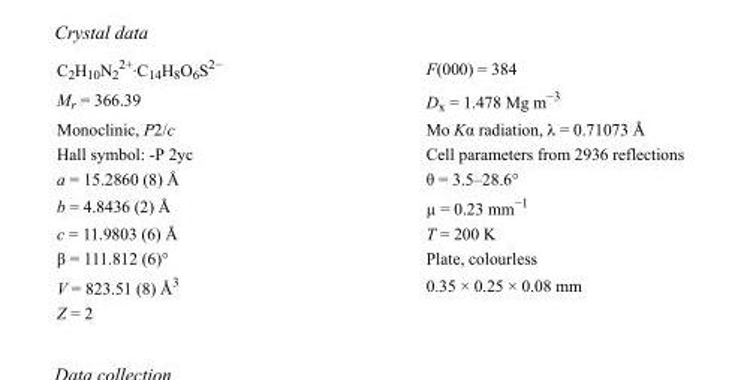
<table><tbody><tr><td>C<sub>2</sub>H<sub>10</sub>N<sub>2</sub> <sup>2+</sup>·C<sub>14</sub>H<sub>8</sub>O<sub>6</sub>S<sup>2−</sup></td><td>F(000) = 384</td></tr><tr><td>M<sub>r</sub> = 366.39</td><td>D<sub>x</sub> = 1.478 Mg m<sup>−3</sup></td></tr><tr><td>Monoclinic, P2/c</td><td>Mo Kα radiation, λ = 0.71073 Å</td></tr><tr><td>Hall symbol: -P 2yc</td><td>Cell parameters from 2936 reflections</td></tr><tr><td>a = 15.2860 (8) Å</td><td>θ = 3.5–28.6°</td></tr><tr><td>b = 4.8436 (2) Å</td><td>µ = 0.23 mm<sup>−1</sup></td></tr><tr><td>c = 11.9803 (6) Å</td><td>T = 200 K</td></tr><tr><td>β = 111.812 (6)°</td><td>Plate, colourless</td></tr><tr><td>V = 823.51 (8) Å<sup>3</sup></td><td>0.35 × 0.25 × 0.08 mm</td></tr><tr><td>Z = 2</td><td></td></tr></tbody></table>